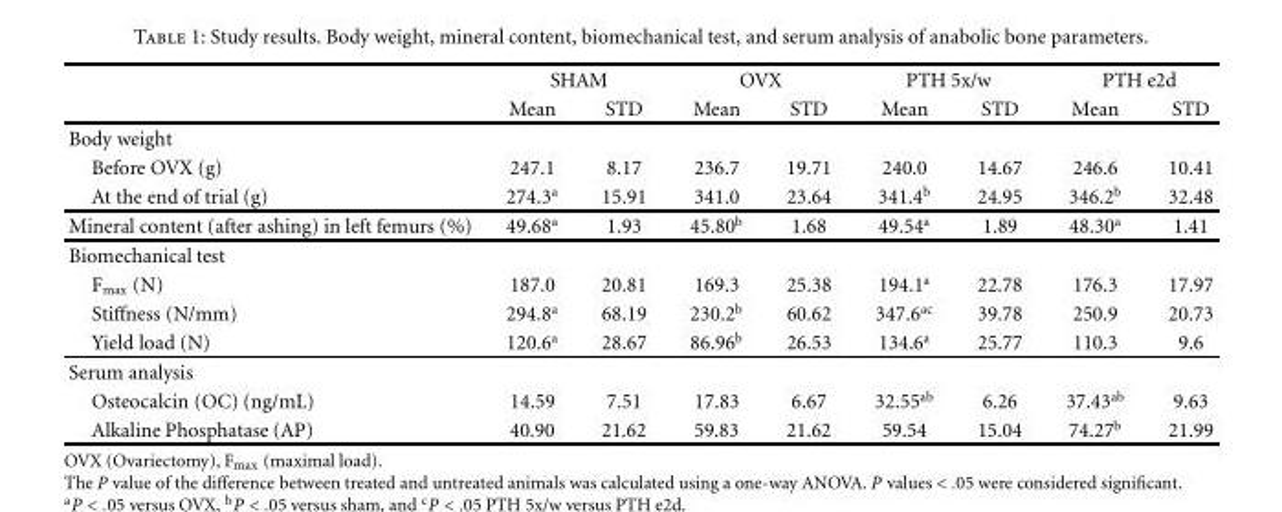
<table><thead><tr><td rowspan="2"></td><td colspan="2">SHAM</td><td colspan="2">OVX</td><td colspan="2">PTH 5x/w</td><td colspan="2">PTH e2d</td></tr><tr><td>Mean</td><td>STD</td><td>Mean</td><td>STD</td><td>Mean</td><td>STD</td><td>Mean</td><td>STD</td></tr></thead><tbody><tr><td colspan="9">Body weight</td></tr><tr><td>Before OVX (g)</td><td>247.1</td><td>8.17</td><td>236.7</td><td>19.71</td><td>240.0</td><td>14.67</td><td>246.6</td><td>10.41</td></tr><tr><td>At the end of trial (g)</td><td>274.3<sup>a</sup></td><td>15.91</td><td>341.0</td><td>23.64</td><td>341.4<sup>b</sup></td><td>24.95</td><td>346.2<sup>b</sup></td><td>32.48</td></tr><tr><td>Mineral content (after ashing) in left femurs (%)</td><td>49.68<sup>a</sup></td><td>1.93</td><td>45.80<sup>b</sup></td><td>1.68</td><td>49.54<sup>a</sup></td><td>1.89</td><td>48.30<sup>a</sup></td><td>1.41</td></tr><tr><td colspan="9">Biomechanical test</td></tr><tr><td>F<sub>max</sub> (N)</td><td>187.0</td><td>20.81</td><td>169.3</td><td>25.38</td><td>194.1<sup>a</sup></td><td>22.78</td><td>176.3</td><td>17.97</td></tr><tr><td>Stiffness (N/mm)</td><td>294.8<sup>a</sup></td><td>68.19</td><td>230.2<sup>b</sup></td><td>60.62</td><td>347.6<sup>ac</sup></td><td>39.78</td><td>250.9</td><td>20.73</td></tr><tr><td>Yield load (N)</td><td>120.6<sup>a</sup></td><td>28.67</td><td>86.96<sup>b</sup></td><td>26.53</td><td>134.6<sup>a</sup></td><td>25.77</td><td>110.3</td><td>9.6</td></tr><tr><td colspan="9">Serum analysis</td></tr><tr><td>Osteocalcin (OC) (ng/mL)</td><td>14.59</td><td>7.51</td><td>17.83</td><td>6.67</td><td>32.55<sup>ab</sup></td><td>6.26</td><td>37.43<sup>ab</sup></td><td>9.63</td></tr><tr><td>Alkaline Phosphatase (AP)</td><td>40.90</td><td>21.62</td><td>59.83</td><td>21.62</td><td>59.54</td><td>15.04</td><td>74.27<sup>b</sup></td><td>21.99</td></tr></tbody></table>